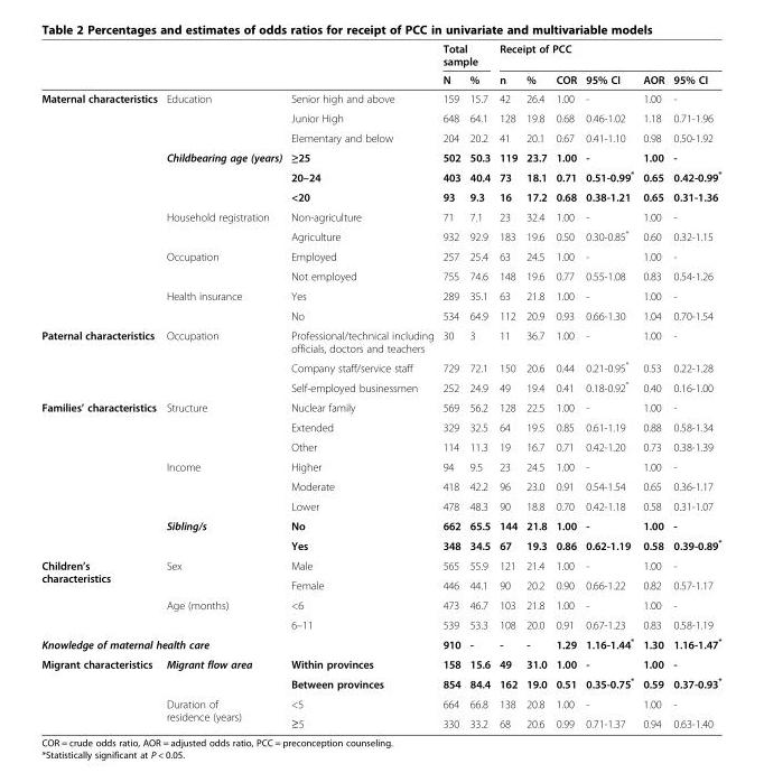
<table><thead><tr><td rowspan="2"></td><td rowspan="2"></td><td rowspan="2"></td><td colspan="2">Total sample</td><td colspan="6">Receipt of PCC</td></tr><tr><td>N</td><td>%</td><td>n</td><td>%</td><td>COR</td><td>95% CI</td><td>AOR</td><td>95% CI</td></tr></thead><tbody><tr><td rowspan="12">Maternal characteristics</td><td rowspan="3">Education</td><td>Senior high and above</td><td>159</td><td>15.7</td><td>42</td><td>26.4</td><td>1.00</td><td>-</td><td>1.00</td><td>-</td></tr><tr><td>Junior High</td><td>648</td><td>64.1</td><td>128</td><td>19.8</td><td>0.68</td><td>0.46-1.02</td><td>1.18</td><td>0.71-1.96</td></tr><tr><td>Elementary and below</td><td>204</td><td>20.2</td><td>41</td><td>20.1</td><td>0.67</td><td>0.41-1.10</td><td>0.98</td><td>0.50-1.92</td></tr><tr><td rowspan="3">Childbearing age (years)</td><td>≥25</td><td>502</td><td>50.3</td><td>119</td><td>23.7</td><td>1.00</td><td>-</td><td>1.00</td><td>-</td></tr><tr><td>20–24</td><td>403</td><td>40.4</td><td>73</td><td>18.1</td><td>0.71</td><td>0.51-0.99*</td><td>0.65</td><td>0.42-0.99*</td></tr><tr><td>&lt;20</td><td>93</td><td>9.3</td><td>16</td><td>17.2</td><td>0.68</td><td>0.38-1.21</td><td>0.65</td><td>0.31-1.36</td></tr><tr><td rowspan="2">Household registration</td><td>Non-agriculture</td><td>71</td><td>7.1</td><td>23</td><td>32.4</td><td>1.00</td><td>-</td><td>1.00</td><td>-</td></tr><tr><td>Agriculture</td><td>932</td><td>92.9</td><td>183</td><td>19.6</td><td>0.50</td><td>0.30-0.85*</td><td>0.60</td><td>0.32-1.15</td></tr><tr><td rowspan="2">Occupation</td><td>Employed</td><td>257</td><td>25.4</td><td>63</td><td>24.5</td><td>1.00</td><td>-</td><td>1.00</td><td>-</td></tr><tr><td>Not employed</td><td>755</td><td>74.6</td><td>148</td><td>19.6</td><td>0.77</td><td>0.55-1.08</td><td>0.83</td><td>0.54-1.26</td></tr><tr><td rowspan="2">Health insurance</td><td>Yes</td><td>289</td><td>35.1</td><td>63</td><td>21.8</td><td>1.00</td><td>-</td><td>1.00</td><td>-</td></tr><tr><td>No</td><td>534</td><td>64.9</td><td>112</td><td>20.9</td><td>0.93</td><td>0.66-1.30</td><td>1.04</td><td>0.70-1.54</td></tr><tr><td rowspan="3">Paternal characteristics</td><td rowspan="3">Occupation</td><td>Professional/technical including officials, doctors and teachers</td><td>30</td><td>3</td><td>11</td><td>36.7</td><td>1.00</td><td>-</td><td>1.00</td><td>-</td></tr><tr><td>Company staff/service staff</td><td>729</td><td>72.1</td><td>150</td><td>20.6</td><td>0.44</td><td>0.21-0.95*</td><td>0.53</td><td>0.22-1.28</td></tr><tr><td>Self-employed businessmen</td><td>252</td><td>24.9</td><td>49</td><td>19.4</td><td>0.41</td><td>0.18-0.92*</td><td>0.40</td><td>0.16-1.00</td></tr><tr><td rowspan="8">Families’ characteristics</td><td rowspan="3">Structure</td><td>Nuclear family</td><td>569</td><td>56.2</td><td>128</td><td>22.5</td><td>1.00</td><td>-</td><td>1.00</td><td>-</td></tr><tr><td>Extended</td><td>329</td><td>32.5</td><td>64</td><td>19.5</td><td>0.85</td><td>0.61-1.19</td><td>0.88</td><td>0.58-1.34</td></tr><tr><td>Other</td><td>114</td><td>11.3</td><td>19</td><td>16.7</td><td>0.71</td><td>0.42-1.20</td><td>0.73</td><td>0.38-1.39</td></tr><tr><td rowspan="3">Income</td><td>Higher</td><td>94</td><td>9.5</td><td>23</td><td>24.5</td><td>1.00</td><td>-</td><td>1.00</td><td>-</td></tr><tr><td>Moderate</td><td>418</td><td>42.2</td><td>96</td><td>23.0</td><td>0.91</td><td>0.54-1.54</td><td>0.65</td><td>0.36-1.17</td></tr><tr><td>Lower</td><td>478</td><td>48.3</td><td>90</td><td>18.8</td><td>0.70</td><td>0.42-1.18</td><td>0.58</td><td>0.31-1.07</td></tr><tr><td rowspan="2">Sibling/s</td><td>No</td><td>662</td><td>65.5</td><td>144</td><td>21.8</td><td>1.00</td><td>-</td><td>1.00</td><td>-</td></tr><tr><td>Yes</td><td>348</td><td>34.5</td><td>67</td><td>19.3</td><td>0.86</td><td>0.62-1.19</td><td>0.58</td><td>0.39-0.89*</td></tr><tr><td rowspan="4">Children’s characteristics</td><td rowspan="2">Sex</td><td>Male</td><td>565</td><td>55.9</td><td>121</td><td>21.4</td><td>1.00</td><td>-</td><td>1.00</td><td>-</td></tr><tr><td>Female</td><td>446</td><td>44.1</td><td>90</td><td>20.2</td><td>0.90</td><td>0.66-1.22</td><td>0.82</td><td>0.57-1.17</td></tr><tr><td rowspan="2">Age (months)</td><td>&lt;6</td><td>473</td><td>46.7</td><td>103</td><td>21.8</td><td>1.00</td><td>-</td><td>1.00</td><td>-</td></tr><tr><td>6–11</td><td>539</td><td>53.3</td><td>108</td><td>20.0</td><td>0.91</td><td>0.67-1.23</td><td>0.83</td><td>0.58-1.19</td></tr><tr><td colspan="3">Knowledge of maternal health care</td><td>910</td><td>-</td><td>-</td><td>-</td><td>1.29</td><td>1.16-1.44*</td><td>1.30</td><td>1.16-1.47*</td></tr><tr><td rowspan="4">Migrant characteristics</td><td rowspan="2">Migrant flow area</td><td>Within provinces</td><td>158</td><td>15.6</td><td>49</td><td>31.0</td><td>1.00</td><td>-</td><td>1.00</td><td>-</td></tr><tr><td>Between provinces</td><td>854</td><td>84.4</td><td>162</td><td>19.0</td><td>0.51</td><td>0.35-0.75*</td><td>0.59</td><td>0.37-0.93*</td></tr><tr><td rowspan="2">Duration of residence (years)</td><td>&lt;5</td><td>664</td><td>66.8</td><td>138</td><td>20.8</td><td>1.00</td><td>-</td><td>1.00</td><td>-</td></tr><tr><td>≥5</td><td>330</td><td>33.2</td><td>68</td><td>20.6</td><td>0.99</td><td>0.71-1.37</td><td>0.94</td><td>0.63-1.40</td></tr></tbody></table>